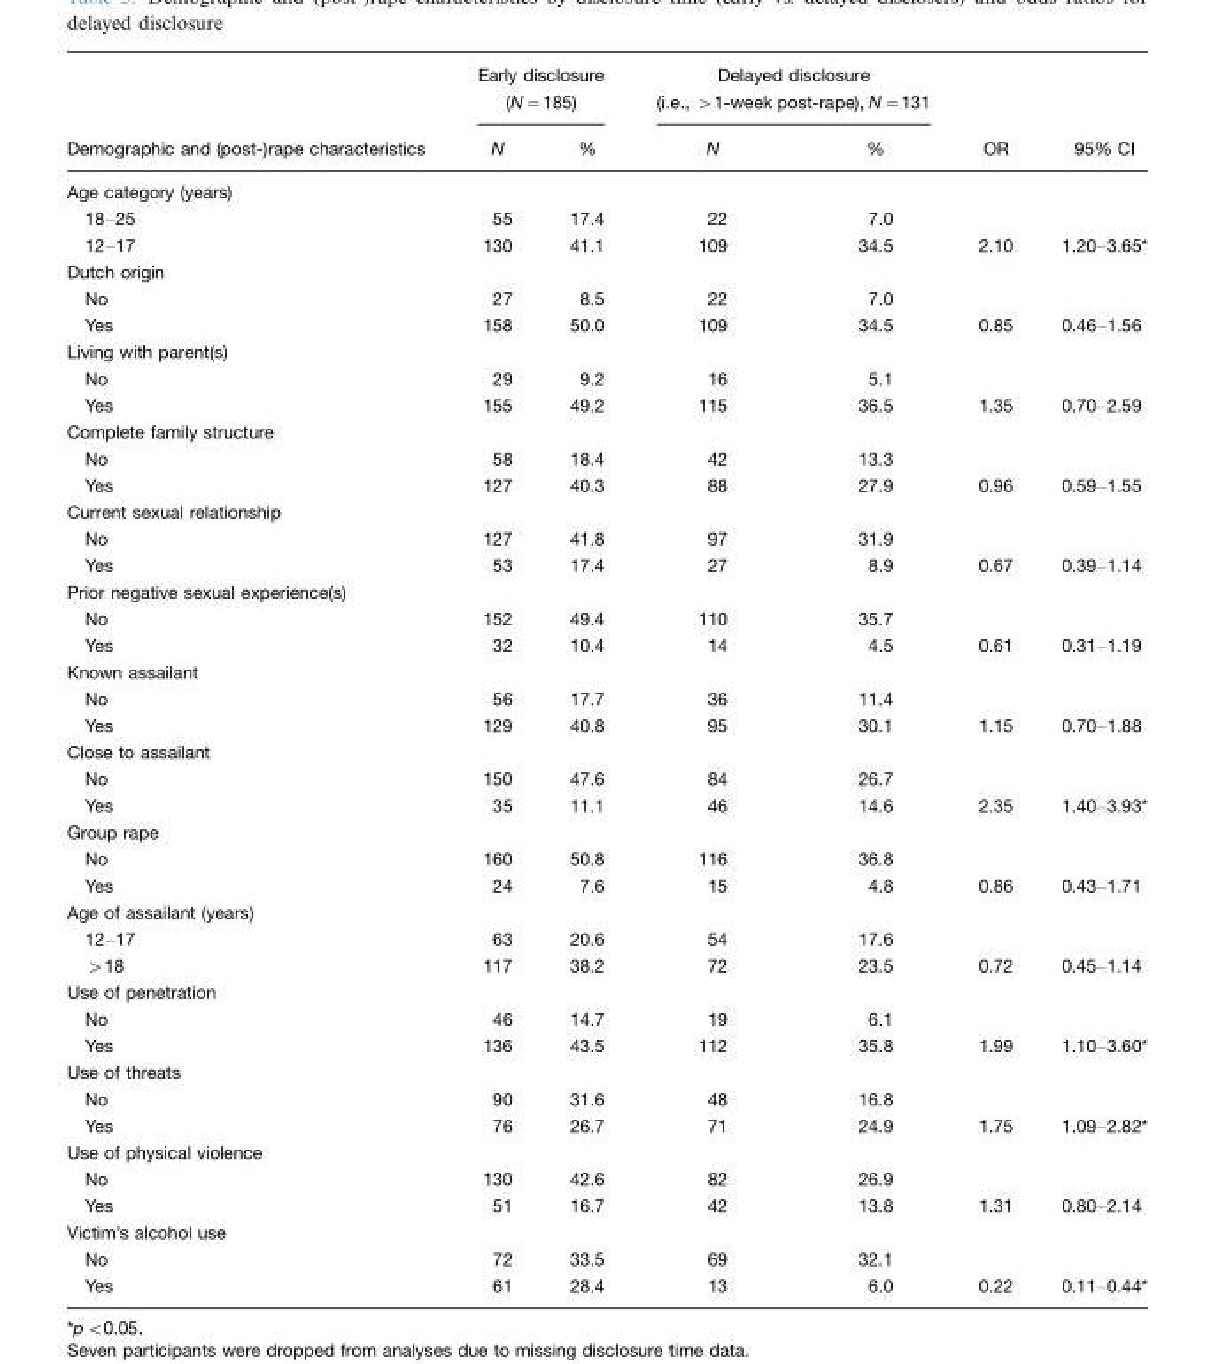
<table><thead><tr><td rowspan="2">Demographic and (post-)rape characteristics</td><td colspan="2">Early disclosure (N=185)</td><td colspan="2">Delayed disclosure (i.e., &gt;1-week post-rape), N=131</td><td rowspan="2">OR</td><td rowspan="2">95% CI</td></tr><tr><td>N</td><td>%</td><td>N</td><td>%</td></tr></thead><tbody><tr><td colspan="7">Age category (years)</td></tr><tr><td>18–25</td><td>55</td><td>17.4</td><td>22</td><td>7.0</td><td></td><td></td></tr><tr><td>12–17</td><td>130</td><td>41.1</td><td>109</td><td>34.5</td><td>2.10</td><td>1.20–3.65*</td></tr><tr><td colspan="7">Dutch origin</td></tr><tr><td>No</td><td>27</td><td>8.5</td><td>22</td><td>7.0</td><td></td><td></td></tr><tr><td>Yes</td><td>158</td><td>50.0</td><td>109</td><td>34.5</td><td>0.85</td><td>0.46–1.56</td></tr><tr><td colspan="7">Living with parent(s)</td></tr><tr><td>No</td><td>29</td><td>9.2</td><td>16</td><td>5.1</td><td></td><td></td></tr><tr><td>Yes</td><td>155</td><td>49.2</td><td>115</td><td>36.5</td><td>1.35</td><td>0.70–2.59</td></tr><tr><td colspan="7">Complete family structure</td></tr><tr><td>No</td><td>58</td><td>18.4</td><td>42</td><td>13.3</td><td></td><td></td></tr><tr><td>Yes</td><td>127</td><td>40.3</td><td>88</td><td>27.9</td><td>0.96</td><td>0.59–1.55</td></tr><tr><td colspan="7">Current sexual relationship</td></tr><tr><td>No</td><td>127</td><td>41.8</td><td>97</td><td>31.9</td><td></td><td></td></tr><tr><td>Yes</td><td>53</td><td>17.4</td><td>27</td><td>8.9</td><td>0.67</td><td>0.39–1.14</td></tr><tr><td colspan="7">Prior negative sexual experience(s)</td></tr><tr><td>No</td><td>152</td><td>49.4</td><td>110</td><td>35.7</td><td></td><td></td></tr><tr><td>Yes</td><td>32</td><td>10.4</td><td>14</td><td>4.5</td><td>0.61</td><td>0.31–1.19</td></tr><tr><td colspan="7">Known assailant</td></tr><tr><td>No</td><td>56</td><td>17.7</td><td>36</td><td>11.4</td><td></td><td></td></tr><tr><td>Yes</td><td>129</td><td>40.8</td><td>95</td><td>30.1</td><td>1.15</td><td>0.70–1.88</td></tr><tr><td colspan="7">Close to assailant</td></tr><tr><td>No</td><td>150</td><td>47.6</td><td>84</td><td>26.7</td><td></td><td></td></tr><tr><td>Yes</td><td>35</td><td>11.1</td><td>46</td><td>14.6</td><td>2.35</td><td>1.40–3.93*</td></tr><tr><td colspan="7">Group rape</td></tr><tr><td>No</td><td>160</td><td>50.8</td><td>116</td><td>36.8</td><td></td><td></td></tr><tr><td>Yes</td><td>24</td><td>7.6</td><td>15</td><td>4.8</td><td>0.86</td><td>0.43–1.71</td></tr><tr><td colspan="7">Age of assailant (years)</td></tr><tr><td>12–17</td><td>63</td><td>20.6</td><td>54</td><td>17.6</td><td></td><td></td></tr><tr><td>&gt;18</td><td>117</td><td>38.2</td><td>72</td><td>23.5</td><td>0.72</td><td>0.45–1.14</td></tr><tr><td colspan="7">Use of penetration</td></tr><tr><td>No</td><td>46</td><td>14.7</td><td>19</td><td>6.1</td><td></td><td></td></tr><tr><td>Yes</td><td>136</td><td>43.5</td><td>112</td><td>35.8</td><td>1.99</td><td>1.10–3.60*</td></tr><tr><td colspan="7">Use of threats</td></tr><tr><td>No</td><td>90</td><td>31.6</td><td>48</td><td>16.8</td><td></td><td></td></tr><tr><td>Yes</td><td>76</td><td>26.7</td><td>71</td><td>24.9</td><td>1.75</td><td>1.09–2.82*</td></tr><tr><td colspan="7">Use of physical violence</td></tr><tr><td>No</td><td>130</td><td>42.6</td><td>82</td><td>26.9</td><td></td><td></td></tr><tr><td>Yes</td><td>51</td><td>16.7</td><td>42</td><td>13.8</td><td>1.31</td><td>0.80–2.14</td></tr><tr><td colspan="7">Victim’s alcohol use</td></tr><tr><td>No</td><td>72</td><td>33.5</td><td>69</td><td>32.1</td><td></td><td></td></tr><tr><td>Yes</td><td>61</td><td>28.4</td><td>13</td><td>6.0</td><td>0.22</td><td>0.11–0.44*</td></tr></tbody></table>